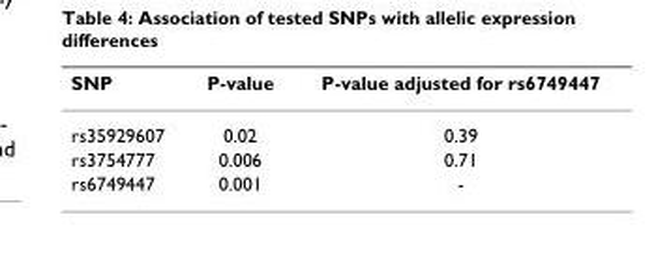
<table><thead><tr><td>SNP</td><td>P-value</td><td>P-value adjusted for rs6749447</td></tr></thead><tbody><tr><td>rs35929607</td><td>0.02</td><td>0.39</td></tr><tr><td>rs3754777</td><td>0.006</td><td>0.71</td></tr><tr><td>rs6749447</td><td>0.001</td><td>-</td></tr></tbody></table>